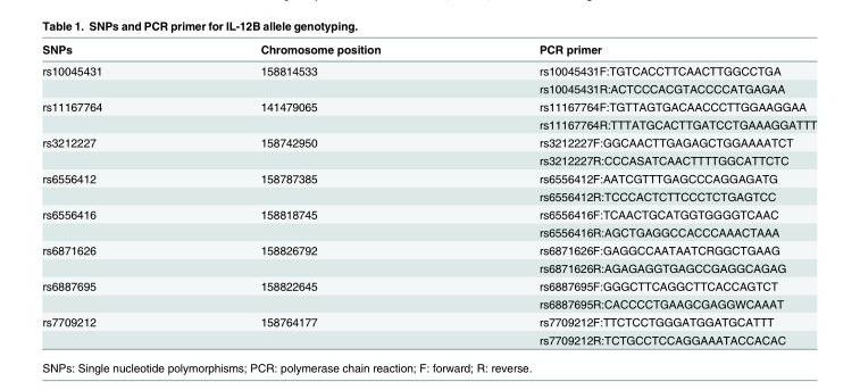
<table><thead><tr><td>SNPs</td><td>Chromosome position</td><td>PCR primer</td></tr></thead><tbody><tr><td rowspan="2">rs10045431</td><td>158814533</td><td>rs10045431F:TGTCACCTTCAACTTGGCCTGA</td></tr><tr><td></td><td>rs10045431R:ACTCCCACGTACCCCATGAGAA</td></tr><tr><td rowspan="2">rs11167764</td><td>141479065</td><td>rs11167764F:TGTTAGTGACAACCCTTGGAAGGAA</td></tr><tr><td></td><td>rs11167764R:TTTATGCACTTGATCCTGAAAGGATTT</td></tr><tr><td rowspan="2">rs3212227</td><td>158742950</td><td>rs3212227F:GGCAACTTGAGAGCTGGAAAATCT</td></tr><tr><td></td><td>rs3212227R:CCCASATCAACTTTTGGCATTCTC</td></tr><tr><td rowspan="2">rs6556412</td><td>158787385</td><td>rs6556412F:AATCGTTTGAGCCCAGGAGATG</td></tr><tr><td></td><td>rs6556412R:TCCCACTCTTCCCTCTGAGTCC</td></tr><tr><td rowspan="2">rs6556416</td><td>158818745</td><td>rs6556416F:TCAACTGCATGGTGGGGTCAAC</td></tr><tr><td></td><td>rs6556416R:AGCTGAGGCCACCCAAACTAAA</td></tr><tr><td rowspan="2">rs6871626</td><td>158826792</td><td>rs6871626F:GAGGCCAATAATCRGGCTGAAG</td></tr><tr><td></td><td>rs6871626R:AGAGAGGTGAGCCGAGGCAGAG</td></tr><tr><td rowspan="2">rs6887695</td><td>158822645</td><td>rs6887695F:GGGCTTCAGGCTTCACCAGTCT</td></tr><tr><td></td><td>rs6887695R:CACCCCTGAAGCGAGGWCAAAT</td></tr><tr><td rowspan="2">rs7709212</td><td>158764177</td><td>rs7709212F:TTCTCCTGGGATGGATGCATTT</td></tr><tr><td></td><td>rs7709212R:TCTGCCTCCAGGAAATACCACAC</td></tr></tbody></table>